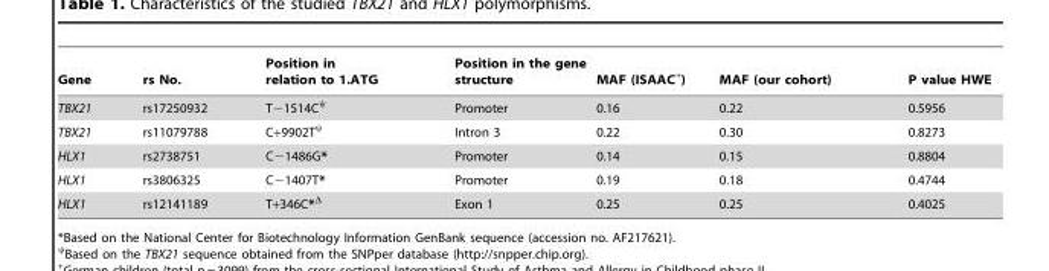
<table><thead><tr><td>Gene</td><td>rs No.</td><td>Position in relation to 1.ATG</td><td>Position in the gene structure</td><td>MAF (ISAAC+)</td><td>MAF (our cohort)</td><td>P value HWE</td></tr></thead><tbody><tr><td>TBX21</td><td>rs17250932</td><td>T−1514Cψ</td><td>Promoter</td><td>0.16</td><td>0.22</td><td>0.5956</td></tr><tr><td>TBX21</td><td>rs11079788</td><td>C+9902Tψ</td><td>Intron 3</td><td>0.22</td><td>0.30</td><td>0.8273</td></tr><tr><td>HLX1</td><td>rs2738751</td><td>C−1486G*</td><td>Promoter</td><td>0.14</td><td>0.15</td><td>0.8804</td></tr><tr><td>HLX1</td><td>rs3806325</td><td>C−1407T*</td><td>Promoter</td><td>0.19</td><td>0.18</td><td>0.4744</td></tr><tr><td>HLX1</td><td>rs12141189</td><td>T+346C*Δ</td><td>Exon 1</td><td>0.25</td><td>0.25</td><td>0.4025</td></tr></tbody></table>